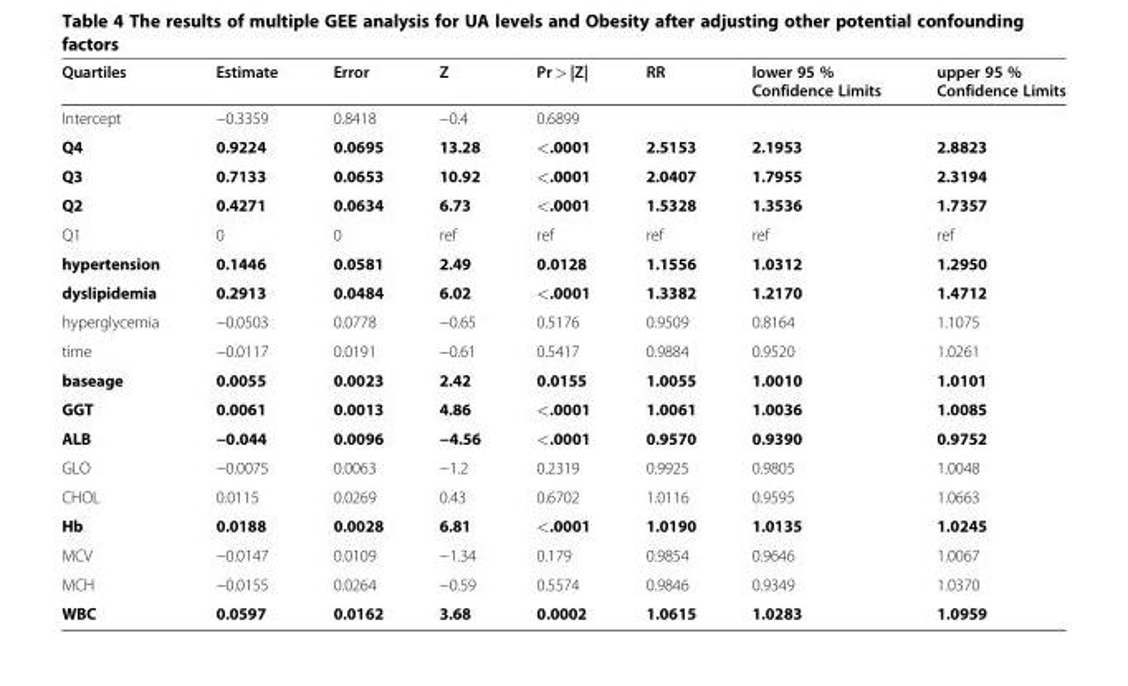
<table><thead><tr><td>Quartiles</td><td>Estimate</td><td>Error</td><td>Z</td><td>Pr &gt; |Z|</td><td>RR</td><td>lower 95 % Confidence Limits</td><td>upper 95 % Confidence Limits</td></tr></thead><tbody><tr><td>Intercept</td><td>−0.3359</td><td>0.8418</td><td>−0.4</td><td>0.6899</td><td></td><td></td><td></td></tr><tr><td>Q4</td><td>0.9224</td><td>0.0695</td><td>13.28</td><td>&lt;.0001</td><td>2.5153</td><td>2.1953</td><td>2.8823</td></tr><tr><td>Q3</td><td>0.7133</td><td>0.0653</td><td>10.92</td><td>&lt;.0001</td><td>2.0407</td><td>1.7955</td><td>2.3194</td></tr><tr><td>Q2</td><td>0.4271</td><td>0.0634</td><td>6.73</td><td>&lt;.0001</td><td>1.5328</td><td>1.3536</td><td>1.7357</td></tr><tr><td>Q1</td><td>0</td><td>0</td><td>ref</td><td>ref</td><td>ref</td><td>ref</td><td>ref</td></tr><tr><td>hypertension</td><td>0.1446</td><td>0.0581</td><td>2.49</td><td>0.0128</td><td>1.1556</td><td>1.0312</td><td>1.2950</td></tr><tr><td>dyslipidemia</td><td>0.2913</td><td>0.0484</td><td>6.02</td><td>&lt;.0001</td><td>1.3382</td><td>1.2170</td><td>1.4712</td></tr><tr><td>hyperglycemia</td><td>−0.0503</td><td>0.0778</td><td>−0.65</td><td>0.5176</td><td>0.9509</td><td>0.8164</td><td>1.1075</td></tr><tr><td>time</td><td>−0.0117</td><td>0.0191</td><td>−0.61</td><td>0.5417</td><td>0.9884</td><td>0.9520</td><td>1.0261</td></tr><tr><td>baseage</td><td>0.0055</td><td>0.0023</td><td>2.42</td><td>0.0155</td><td>1.0055</td><td>1.0010</td><td>1.0101</td></tr><tr><td>GGT</td><td>0.0061</td><td>0.0013</td><td>4.86</td><td>&lt;.0001</td><td>1.0061</td><td>1.0036</td><td>1.0085</td></tr><tr><td>ALB</td><td>−0.044</td><td>0.0096</td><td>−4.56</td><td>&lt;.0001</td><td>0.9570</td><td>0.9390</td><td>0.9752</td></tr><tr><td>GLO</td><td>−0.0075</td><td>0.0063</td><td>−1.2</td><td>0.2319</td><td>0.9925</td><td>0.9805</td><td>1.0048</td></tr><tr><td>CHOL</td><td>0.0115</td><td>0.0269</td><td>0.43</td><td>0.6702</td><td>1.0116</td><td>0.9595</td><td>1.0663</td></tr><tr><td>Hb</td><td>0.0188</td><td>0.0028</td><td>6.81</td><td>&lt;.0001</td><td>1.0190</td><td>1.0135</td><td>1.0245</td></tr><tr><td>MCV</td><td>−0.0147</td><td>0.0109</td><td>−1.34</td><td>0.179</td><td>0.9854</td><td>0.9646</td><td>1.0067</td></tr><tr><td>MCH</td><td>−0.0155</td><td>0.0264</td><td>−0.59</td><td>0.5574</td><td>0.9846</td><td>0.9349</td><td>1.0370</td></tr><tr><td>WBC</td><td>0.0597</td><td>0.0162</td><td>3.68</td><td>0.0002</td><td>1.0615</td><td>1.0283</td><td>1.0959</td></tr></tbody></table>